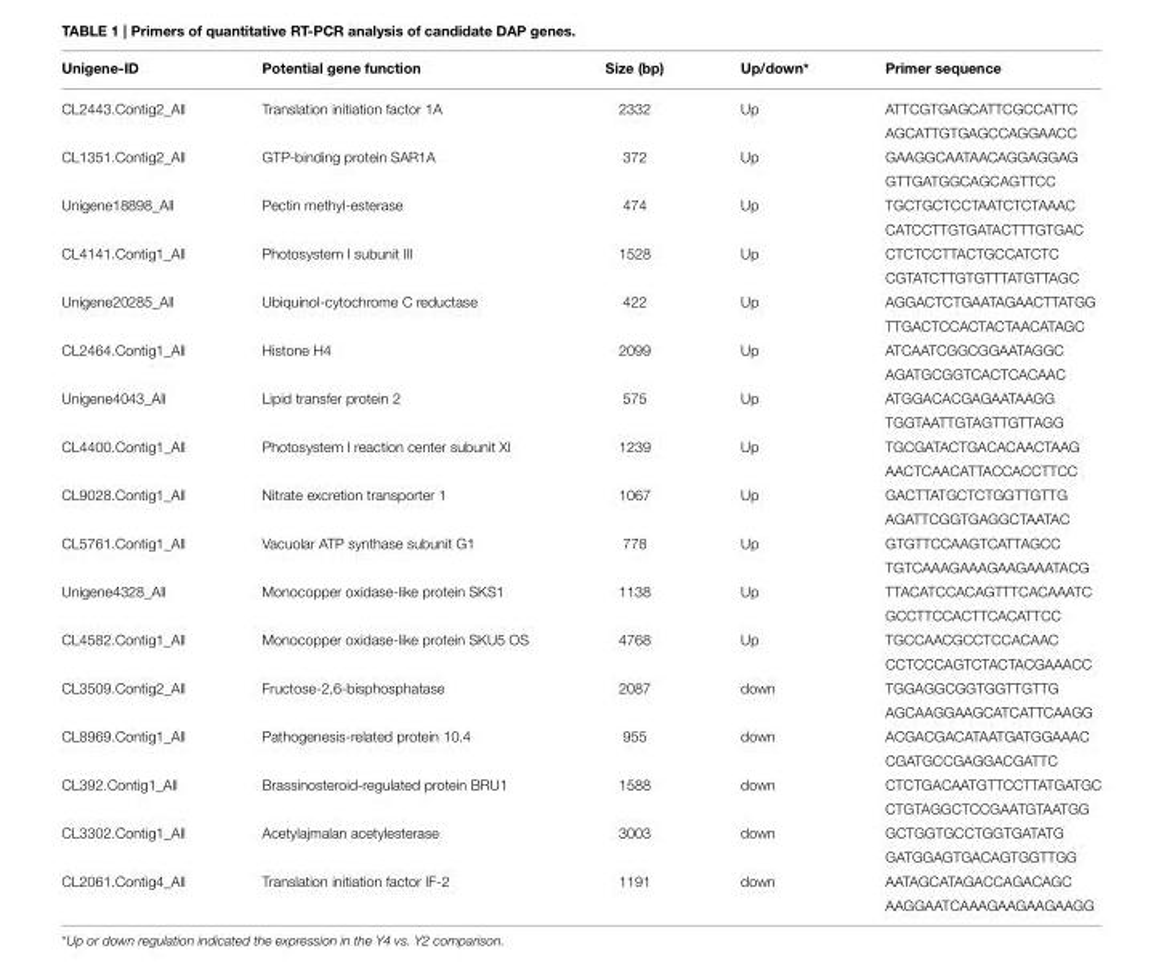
<table><thead><tr><td>Unigene-ID</td><td>Potential gene function</td><td>Size (bp)</td><td>Up/down*</td><td>Primer sequence</td></tr></thead><tbody><tr><td rowspan="2">CL2443.Contig2_All</td><td>Translation initiation factor 1A</td><td>2332</td><td>Up</td><td>ATTCGTGAGCATTCGCCATTC</td></tr><tr><td></td><td></td><td></td><td>AGCATTGTGAGCCAGGAACC</td></tr><tr><td rowspan="2">CL1351.Contig2_All</td><td>GTP-binding protein SAR1A</td><td>372</td><td>Up</td><td>GAAGGCAATAACAGGAGGAG</td></tr><tr><td></td><td></td><td></td><td>GTTGATGGCAGCAGTTCC</td></tr><tr><td rowspan="2">Unigene18898_All</td><td>Pectin methyl-esterase</td><td>474</td><td>Up</td><td>TGCTGCTCCTAATCTCTAAAC</td></tr><tr><td></td><td></td><td></td><td>CATCCTTGTGATACTTTGTGAC</td></tr><tr><td rowspan="2">CL4141.Contig1_All</td><td>Photosystem I subunit III</td><td>1528</td><td>Up</td><td>CTCTCCTTACTGCCATCTC</td></tr><tr><td></td><td></td><td></td><td>CGTATCTTGTGTTTATGTTAGC</td></tr><tr><td rowspan="2">Unigene20285_All</td><td>Ubiquinol-cytochrome C reductase</td><td>422</td><td>Up</td><td>AGGACTCTGAATAGAACTTATGG</td></tr><tr><td></td><td></td><td></td><td>TTGACTCCACTACTAACATAGC</td></tr><tr><td rowspan="2">CL2464.Contig1_All</td><td>Histone H4</td><td>2099</td><td>Up</td><td>ATCAATCGGCGGAATAGGC</td></tr><tr><td></td><td></td><td></td><td>AGATGCGGTCACTCACAAC</td></tr><tr><td rowspan="2">Unigene4043_All</td><td>Lipid transfer protein 2</td><td>575</td><td>Up</td><td>ATGGACACGAGAATAAGG</td></tr><tr><td></td><td></td><td></td><td>TGGTAATTGTAGTTGTTAGG</td></tr><tr><td rowspan="2">CL4400.Contig1_All</td><td>Photosystem I reaction center subunit XI</td><td>1239</td><td>Up</td><td>TGCGATACTGACACAACTAAG</td></tr><tr><td></td><td></td><td></td><td>AACTCAACATTACCACCTTCC</td></tr><tr><td rowspan="2">CL9028.Contig1_All</td><td>Nitrate excretion transporter 1</td><td>1067</td><td>Up</td><td>GACTTATGCTCTGGTTGTTG</td></tr><tr><td></td><td></td><td></td><td>AGATTCGGTGAGGCTAATAC</td></tr><tr><td rowspan="2">CL5761.Contig1_All</td><td>Vacuolar ATP synthase subunit G1</td><td>778</td><td>Up</td><td>GTGTTCCAAGTCATTAGCC</td></tr><tr><td></td><td></td><td></td><td>TGTCAAAGAAAGAAGAAATACG</td></tr><tr><td rowspan="2">Unigene4328_All</td><td>Monocopper oxidase-like protein SKS1</td><td>1138</td><td>Up</td><td>TTACATCCACAGTTTCACAAATC</td></tr><tr><td></td><td></td><td></td><td>GCCTTCCACTTCACATTCC</td></tr><tr><td rowspan="2">CL4582.Contig1_All</td><td>Monocopper oxidase-like protein SKU5 OS</td><td>4768</td><td>Up</td><td>TGCCAACGCCTCCACAAC</td></tr><tr><td></td><td></td><td></td><td>CCTCCCAGTCTACTACGAAACC</td></tr><tr><td rowspan="2">CL3509.Contig2_All</td><td>Fructose-2,6-bisphosphatase</td><td>2087</td><td>down</td><td>TGGAGGCGGTGGTTGTTG</td></tr><tr><td></td><td></td><td></td><td>AGCAAGGAAGCATCATTCAAGG</td></tr><tr><td rowspan="2">CL8969.Contig1_All</td><td>Pathogenesis-related protein 10.4</td><td>955</td><td>down</td><td>ACGACGACATAATGATGGAAAC</td></tr><tr><td></td><td></td><td></td><td>CGATGCCGAGGACGATTC</td></tr><tr><td rowspan="2">CL392.Contig1_All</td><td>Brassinosteroid-regulated protein BRU1</td><td>1588</td><td>down</td><td>CTCTGACAATGTTCCTTATGATGC</td></tr><tr><td></td><td></td><td></td><td>CTGTAGGCTCCGAATGTAATGG</td></tr><tr><td rowspan="2">CL3302.Contig1_All</td><td>Acetylajmalan acetylesterase</td><td>3003</td><td>down</td><td>GCTGGTGCCTGGTGATATG</td></tr><tr><td></td><td></td><td></td><td>GATGGAGTGACAGTGGTTGG</td></tr><tr><td rowspan="2">CL2061.Contig4_All</td><td>Translation initiation factor IF-2</td><td>1191</td><td>down</td><td>AATAGCATAGACCAGACAGC</td></tr><tr><td></td><td></td><td></td><td>AAGGAATCAAAGAAGAAGAAGG</td></tr></tbody></table>